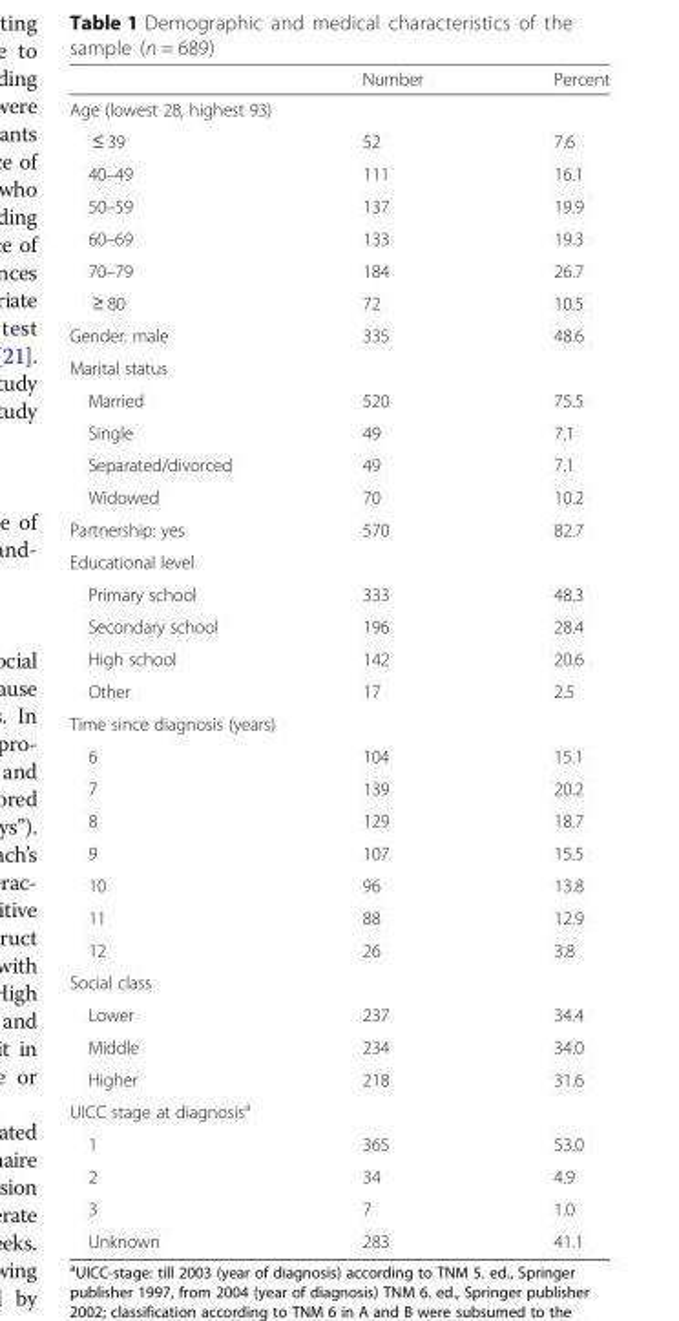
<table><thead><tr><td></td><td>Number</td><td>Percent</td></tr></thead><tbody><tr><td colspan="3">Age (lowest 28, highest 93)</td></tr><tr><td>≤ 39</td><td>52</td><td>7.6</td></tr><tr><td>40–49</td><td>111</td><td>16.1</td></tr><tr><td>50–59</td><td>137</td><td>19.9</td></tr><tr><td>60–69</td><td>133</td><td>19.3</td></tr><tr><td>70–79</td><td>184</td><td>26.7</td></tr><tr><td>≥ 80</td><td>72</td><td>10.5</td></tr><tr><td>Gender: male</td><td>335</td><td>48.6</td></tr><tr><td colspan="3">Marital status</td></tr><tr><td>Married</td><td>520</td><td>75.5</td></tr><tr><td>Single</td><td>49</td><td>7.1</td></tr><tr><td>Separated/divorced</td><td>49</td><td>7.1</td></tr><tr><td>Widowed</td><td>70</td><td>10.2</td></tr><tr><td>Partnership: yes</td><td>570</td><td>82.7</td></tr><tr><td colspan="3">Educational level</td></tr><tr><td>Primary school</td><td>333</td><td>48.3</td></tr><tr><td>Secondary school</td><td>196</td><td>28.4</td></tr><tr><td>High school</td><td>142</td><td>20.6</td></tr><tr><td>Other</td><td>17</td><td>2.5</td></tr><tr><td colspan="3">Time since diagnosis (years)</td></tr><tr><td>6</td><td>104</td><td>15.1</td></tr><tr><td>7</td><td>139</td><td>20.2</td></tr><tr><td>8</td><td>129</td><td>18.7</td></tr><tr><td>9</td><td>107</td><td>15.5</td></tr><tr><td>10</td><td>96</td><td>13.8</td></tr><tr><td>11</td><td>88</td><td>12.9</td></tr><tr><td>12</td><td>26</td><td>3.8</td></tr><tr><td colspan="3">Social class</td></tr><tr><td>Lower</td><td>237</td><td>34.4</td></tr><tr><td>Middle</td><td>234</td><td>34.0</td></tr><tr><td>Higher</td><td>218</td><td>31.6</td></tr><tr><td colspan="3">UICC stage at diagnosis<sup>a</sup></td></tr><tr><td>1</td><td>365</td><td>53.0</td></tr><tr><td>2</td><td>34</td><td>4.9</td></tr><tr><td>3</td><td>7</td><td>1.0</td></tr><tr><td>Unknown</td><td>283</td><td>41.1</td></tr></tbody></table>